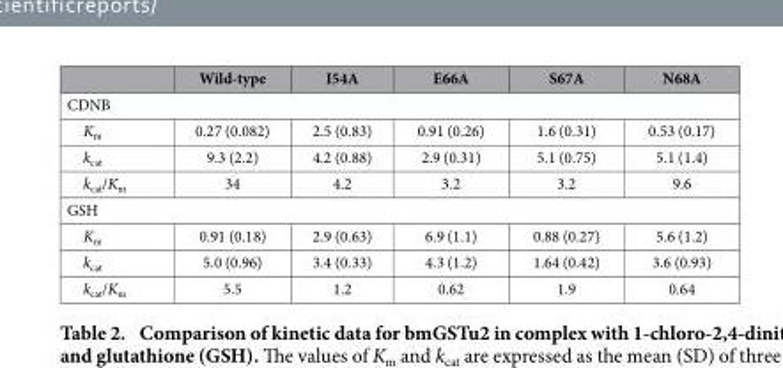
<table><thead><tr><td></td><td>Wild-type</td><td>I54A</td><td>E66A</td><td>S67A</td><td>N68A</td></tr></thead><tbody><tr><td colspan="6">CDNB</td></tr><tr><td>K<sub>m</sub></td><td>0.27 (0.082)</td><td>2.5 (0.83)</td><td>0.91 (0.26)</td><td>1.6 (0.31)</td><td>0.53 (0.17)</td></tr><tr><td>k<sub>cat</sub></td><td>9.3 (2.2)</td><td>4.2 (0.88)</td><td>2.9 (0.31)</td><td>5.1 (0.75)</td><td>5.1 (1.4)</td></tr><tr><td>k<sub>cat</sub>/K<sub>m</sub></td><td>34</td><td>4.2</td><td>3.2</td><td>3.2</td><td>9.6</td></tr><tr><td colspan="6">GSH</td></tr><tr><td>K<sub>m</sub></td><td>0.91 (0.18)</td><td>2.9 (0.63)</td><td>6.9 (1.1)</td><td>0.88 (0.27)</td><td>5.6 (1.2)</td></tr><tr><td>k<sub>cat</sub></td><td>5.0 (0.96)</td><td>3.4 (0.33)</td><td>4.3 (1.2)</td><td>1.64 (0.42)</td><td>3.6 (0.93)</td></tr><tr><td>k<sub>cat</sub>/K<sub>m</sub></td><td>5.5</td><td>1.2</td><td>0.62</td><td>1.9</td><td>0.64</td></tr></tbody></table>